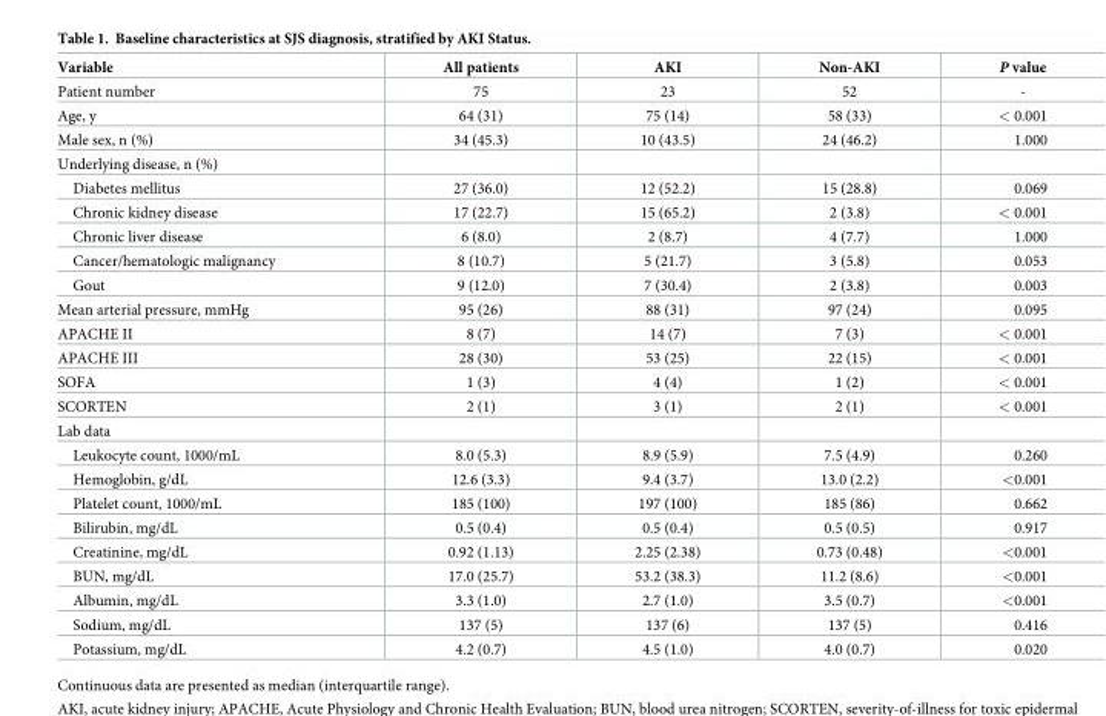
<table><thead><tr><td>Variable</td><td>All patients</td><td>AKI</td><td>Non-AKI</td><td>P value</td></tr></thead><tbody><tr><td>Patient number</td><td>75</td><td>23</td><td>52</td><td>-</td></tr><tr><td>Age, y</td><td>64 (31)</td><td>75 (14)</td><td>58 (33)</td><td>&lt; 0.001</td></tr><tr><td>Male sex, n (%)</td><td>34 (45.3)</td><td>10 (43.5)</td><td>24 (46.2)</td><td>1.000</td></tr><tr><td colspan="5">Underlying disease, n (%)</td></tr><tr><td>Diabetes mellitus</td><td>27 (36.0)</td><td>12 (52.2)</td><td>15 (28.8)</td><td>0.069</td></tr><tr><td>Chronic kidney disease</td><td>17 (22.7)</td><td>15 (65.2)</td><td>2 (3.8)</td><td>&lt; 0.001</td></tr><tr><td>Chronic liver disease</td><td>6 (8.0)</td><td>2 (8.7)</td><td>4 (7.7)</td><td>1.000</td></tr><tr><td>Cancer/hematologic malignancy</td><td>8 (10.7)</td><td>5 (21.7)</td><td>3 (5.8)</td><td>0.053</td></tr><tr><td>Gout</td><td>9 (12.0)</td><td>7 (30.4)</td><td>2 (3.8)</td><td>0.003</td></tr><tr><td>Mean arterial pressure, mmHg</td><td>95 (26)</td><td>88 (31)</td><td>97 (24)</td><td>0.095</td></tr><tr><td>APACHE II</td><td>8 (7)</td><td>14 (7)</td><td>7 (3)</td><td>&lt; 0.001</td></tr><tr><td>APACHE III</td><td>28 (30)</td><td>53 (25)</td><td>22 (15)</td><td>&lt; 0.001</td></tr><tr><td>SOFA</td><td>1 (3)</td><td>4 (4)</td><td>1 (2)</td><td>&lt; 0.001</td></tr><tr><td>SCORTEN</td><td>2 (1)</td><td>3 (1)</td><td>2 (1)</td><td>&lt; 0.001</td></tr><tr><td colspan="5">Lab data</td></tr><tr><td>Leukocyte count, 1000/mL</td><td>8.0 (5.3)</td><td>8.9 (5.9)</td><td>7.5 (4.9)</td><td>0.260</td></tr><tr><td>Hemoglobin, g/dL</td><td>12.6 (3.3)</td><td>9.4 (3.7)</td><td>13.0 (2.2)</td><td>&lt;0.001</td></tr><tr><td>Platelet count, 1000/mL</td><td>185 (100)</td><td>197 (100)</td><td>185 (86)</td><td>0.662</td></tr><tr><td>Bilirubin, mg/dL</td><td>0.5 (0.4)</td><td>0.5 (0.4)</td><td>0.5 (0.5)</td><td>0.917</td></tr><tr><td>Creatinine, mg/dL</td><td>0.92 (1.13)</td><td>2.25 (2.38)</td><td>0.73 (0.48)</td><td>&lt;0.001</td></tr><tr><td>BUN, mg/dL</td><td>17.0 (25.7)</td><td>53.2 (38.3)</td><td>11.2 (8.6)</td><td>&lt;0.001</td></tr><tr><td>Albumin, mg/dL</td><td>3.3 (1.0)</td><td>2.7 (1.0)</td><td>3.5 (0.7)</td><td>&lt;0.001</td></tr><tr><td>Sodium, mg/dL</td><td>137 (5)</td><td>137 (6)</td><td>137 (5)</td><td>0.416</td></tr><tr><td>Potassium, mg/dL</td><td>4.2 (0.7)</td><td>4.5 (1.0)</td><td>4.0 (0.7)</td><td>0.020</td></tr></tbody></table>